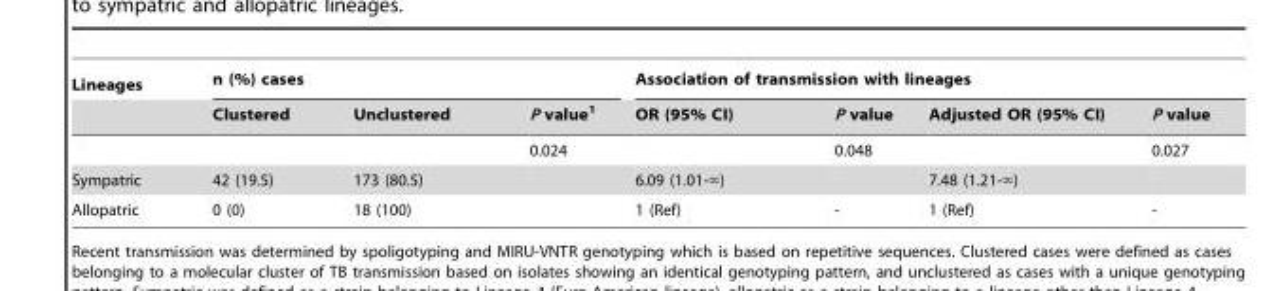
<table><thead><tr><td rowspan="2">Lineages</td><td colspan="3">n (%) cases</td><td colspan="4">Association of transmission with lineages</td></tr><tr><td>Clustered</td><td>Unclustered</td><td>P value<sup>1</sup></td><td>OR (95% CI)</td><td>P value</td><td>Adjusted OR (95% CI)</td><td>P value</td></tr></thead><tbody><tr><td></td><td></td><td></td><td>0.024</td><td></td><td>0.048</td><td></td><td>0.027</td></tr><tr><td>Sympatric</td><td>42 (19.5)</td><td>173 (80.5)</td><td></td><td>6.09 (1.01-‘)</td><td></td><td>7.48 (1.21-‘)</td><td></td></tr><tr><td>Allopatric</td><td>0 (0)</td><td>18 (100)</td><td></td><td>1 (Ref)</td><td>-</td><td>1 (Ref)</td><td>-</td></tr></tbody></table>